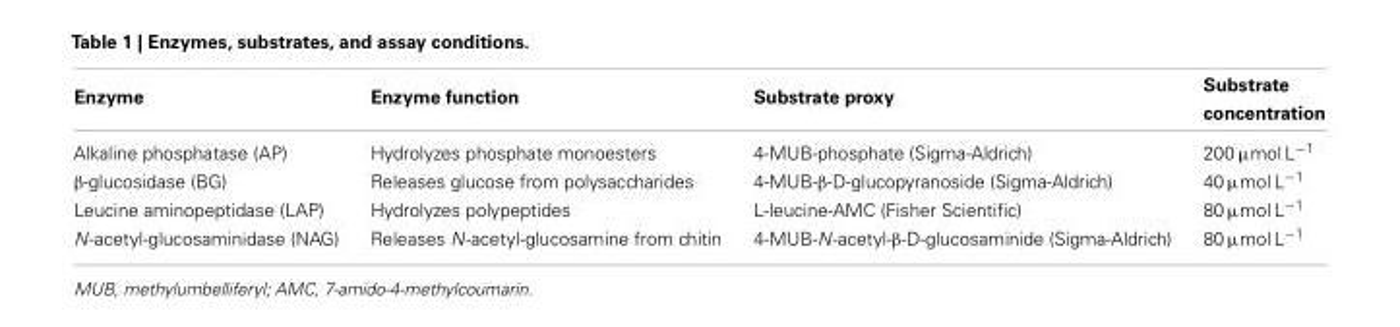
<table><thead><tr><td>Enzyme</td><td>Enzyme function</td><td>Substrate proxy</td><td>Substrate concentration</td></tr></thead><tbody><tr><td>Alkaline phosphatase (AP)</td><td>Hydrolyzes phosphate monoesters</td><td>4-MUB-phosphate (Sigma-Aldrich)</td><td>200 µmol L<sup>−1</sup></td></tr><tr><td>β-glucosidase (BG)</td><td>Releases glucose from polysaccharides</td><td>4-MUB-β-D-glucopyranoside (Sigma-Aldrich)</td><td>40 µmol L<sup>−1</sup></td></tr><tr><td>Leucine aminopeptidase (LAP)</td><td>Hydrolyzes polypeptides</td><td>L-leucine-AMC (Fisher Scientific)</td><td>80 µmol L<sup>−1</sup></td></tr><tr><td>N-acetyl-glucosaminidase (NAG)</td><td>Releases N-acetyl-glucosamine from chitin</td><td>4-MUB-N-acetyl-β-D-glucosaminide (Sigma-Aldrich)</td><td>80 µmol L<sup>−1</sup></td></tr></tbody></table>